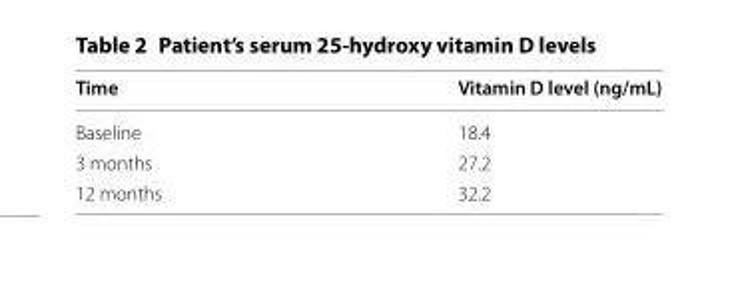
<table><thead><tr><td>Time</td><td>Vitamin D level (ng/mL)</td></tr></thead><tbody><tr><td>Baseline</td><td>18.4</td></tr><tr><td>3 months</td><td>27.2</td></tr><tr><td>12 months</td><td>32.2</td></tr></tbody></table>